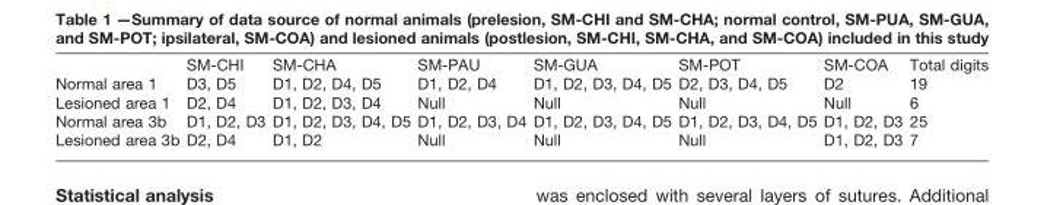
<table><thead><tr><td></td><td>SM-CHI</td><td>SM-CHA</td><td>SM-PAU</td><td>SM-GUA</td><td>SM-POT</td><td>SM-COA</td><td>Total digits</td></tr></thead><tbody><tr><td>Normal area 1</td><td>D3, D5</td><td>D1, D2, D4, D5</td><td>D1, D2, D4</td><td>D1, D2, D3, D4, D5</td><td>D2, D3, D4, D5</td><td>D2</td><td>19</td></tr><tr><td>Lesioned area 1</td><td>D2, D4</td><td>D1, D2, D3, D4</td><td>Null</td><td>Null</td><td>Null</td><td>Null</td><td>6</td></tr><tr><td>Normal area 3b</td><td>D1, D2, D3</td><td>D1, D2, D3, D4, D5</td><td>D1, D2, D3, D4</td><td>D1, D2, D3, D4, D5</td><td>D1, D2, D3, D4, D5</td><td>D1, D2, D3</td><td>25</td></tr><tr><td>Lesioned area 3b</td><td>D2, D4</td><td>D1, D2</td><td>Null</td><td>Null</td><td>Null</td><td>D1, D2, D3</td><td>7</td></tr></tbody></table>